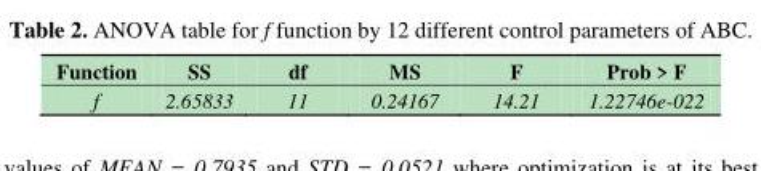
<table><thead><tr><td>Function</td><td>SS</td><td>df</td><td>MS</td><td>F</td><td>Prob &gt; F</td></tr></thead><tbody><tr><td>f</td><td>2.65833</td><td>11</td><td>0.24167</td><td>14.21</td><td>1.22746e-022</td></tr></tbody></table>